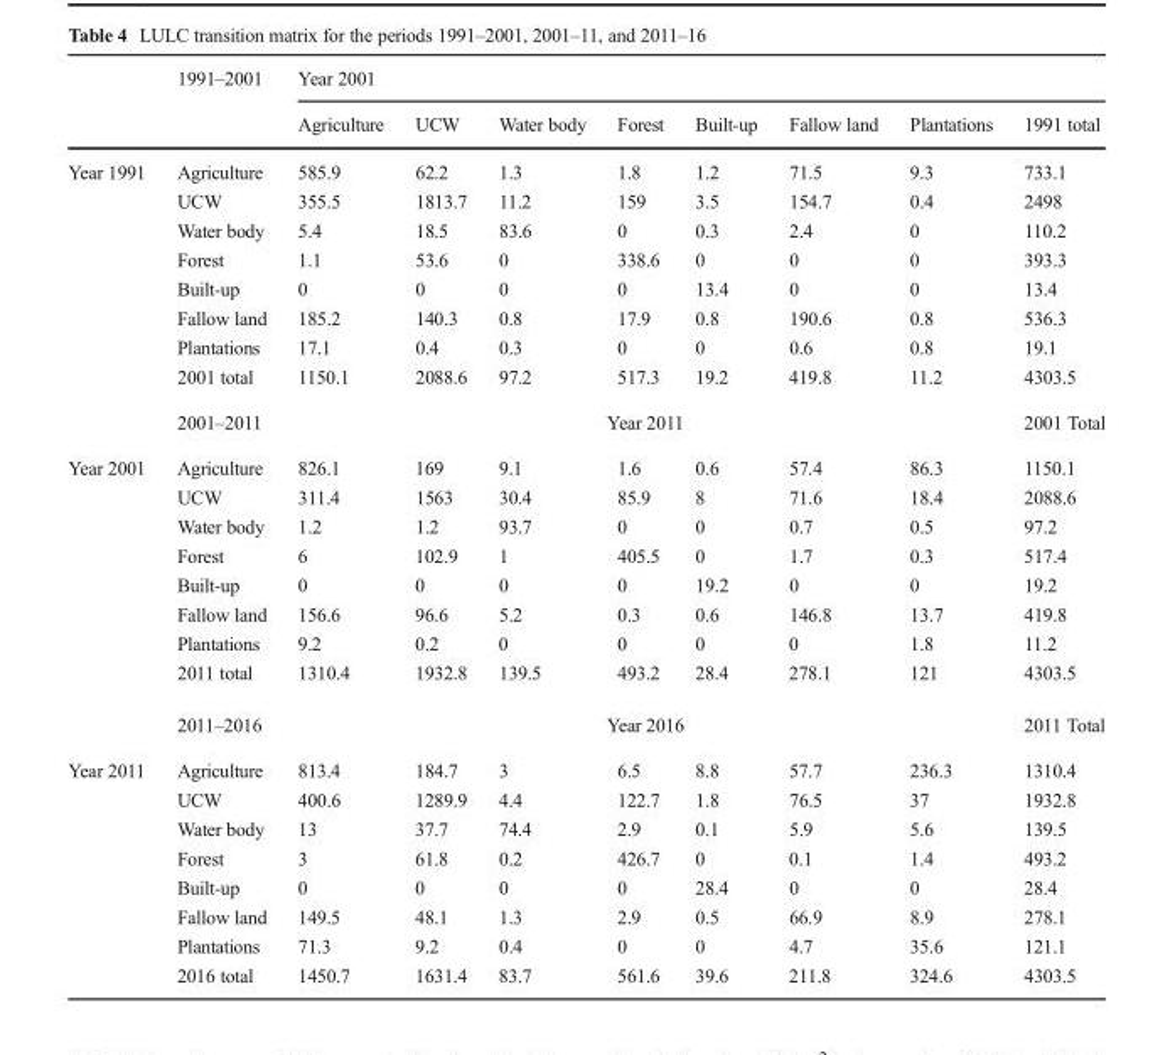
<table><thead><tr><td rowspan="2"></td><td rowspan="2">1991–2001</td><td colspan="8">Year 2001</td></tr><tr><td>Agriculture</td><td>UCW</td><td>Water body</td><td>Forest</td><td>Built-up</td><td>Fallow land</td><td>Plantations</td><td>1991 total</td></tr></thead><tbody><tr><td rowspan="9">Year 1991</td><td>Agriculture</td><td>585.9</td><td>62.2</td><td>1.3</td><td>1.8</td><td>1.2</td><td>71.5</td><td>9.3</td><td>733.1</td></tr><tr><td>UCW</td><td>355.5</td><td>1813.7</td><td>11.2</td><td>159</td><td>3.5</td><td>154.7</td><td>0.4</td><td>2498</td></tr><tr><td>Water body</td><td>5.4</td><td>18.5</td><td>83.6</td><td>0</td><td>0.3</td><td>2.4</td><td>0</td><td>110.2</td></tr><tr><td>Forest</td><td>1.1</td><td>53.6</td><td>0</td><td>338.6</td><td>0</td><td>0</td><td>0</td><td>393.3</td></tr><tr><td>Built-up</td><td>0</td><td>0</td><td>0</td><td>0</td><td>13.4</td><td>0</td><td>0</td><td>13.4</td></tr><tr><td>Fallow land</td><td>185.2</td><td>140.3</td><td>0.8</td><td>17.9</td><td>0.8</td><td>190.6</td><td>0.8</td><td>536.3</td></tr><tr><td>Plantations</td><td>17.1</td><td>0.4</td><td>0.3</td><td>0</td><td>0</td><td>0.6</td><td>0.8</td><td>19.1</td></tr><tr><td>2001 total</td><td>1150.1</td><td>2088.6</td><td>97.2</td><td>517.3</td><td>19.2</td><td>419.8</td><td>11.2</td><td>4303.5</td></tr><tr><td>2001–2011</td><td colspan="7">Year 2011</td><td>2001 Total</td></tr><tr><td rowspan="9">Year 2001</td><td>Agriculture</td><td>826.1</td><td>169</td><td>9.1</td><td>1.6</td><td>0.6</td><td>57.4</td><td>86.3</td><td>1150.1</td></tr><tr><td>UCW</td><td>311.4</td><td>1563</td><td>30.4</td><td>85.9</td><td>8</td><td>71.6</td><td>18.4</td><td>2088.6</td></tr><tr><td>Water body</td><td>1.2</td><td>1.2</td><td>93.7</td><td>0</td><td>0</td><td>0.7</td><td>0.5</td><td>97.2</td></tr><tr><td>Forest</td><td>6</td><td>102.9</td><td>1</td><td>405.5</td><td>0</td><td>1.7</td><td>0.3</td><td>517.4</td></tr><tr><td>Built-up</td><td>0</td><td>0</td><td>0</td><td>0</td><td>19.2</td><td>0</td><td>0</td><td>19.2</td></tr><tr><td>Fallow land</td><td>156.6</td><td>96.6</td><td>5.2</td><td>0.3</td><td>0.6</td><td>146.8</td><td>13.7</td><td>419.8</td></tr><tr><td>Plantations</td><td>9.2</td><td>0.2</td><td>0</td><td>0</td><td>0</td><td>0</td><td>1.8</td><td>11.2</td></tr><tr><td>2011 total</td><td>1310.4</td><td>1932.8</td><td>139.5</td><td>493.2</td><td>28.4</td><td>278.1</td><td>121</td><td>4303.5</td></tr><tr><td>2011–2016</td><td colspan="7">Year 2016</td><td>2011 Total</td></tr><tr><td rowspan="8">Year 2011</td><td>Agriculture</td><td>813.4</td><td>184.7</td><td>3</td><td>6.5</td><td>8.8</td><td>57.7</td><td>236.3</td><td>1310.4</td></tr><tr><td>UCW</td><td>400.6</td><td>1289.9</td><td>4.4</td><td>122.7</td><td>1.8</td><td>76.5</td><td>37</td><td>1932.8</td></tr><tr><td>Water body</td><td>13</td><td>37.7</td><td>74.4</td><td>2.9</td><td>0.1</td><td>5.9</td><td>5.6</td><td>139.5</td></tr><tr><td>Forest</td><td>3</td><td>61.8</td><td>0.2</td><td>426.7</td><td>0</td><td>0.1</td><td>1.4</td><td>493.2</td></tr><tr><td>Built-up</td><td>0</td><td>0</td><td>0</td><td>0</td><td>28.4</td><td>0</td><td>0</td><td>28.4</td></tr><tr><td>Fallow land</td><td>149.5</td><td>48.1</td><td>1.3</td><td>2.9</td><td>0.5</td><td>66.9</td><td>8.9</td><td>278.1</td></tr><tr><td>Plantations</td><td>71.3</td><td>9.2</td><td>0.4</td><td>0</td><td>0</td><td>4.7</td><td>35.6</td><td>121.1</td></tr><tr><td>2016 total</td><td>1450.7</td><td>1631.4</td><td>83.7</td><td>561.6</td><td>39.6</td><td>211.8</td><td>324.6</td><td>4303.5</td></tr></tbody></table>